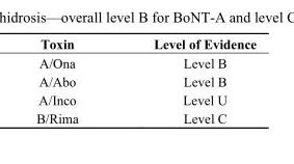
<table><thead><tr><td>Toxin</td><td>Level of Evidence</td></tr></thead><tbody><tr><td>A/Ona</td><td>Level B</td></tr><tr><td>A/Abo</td><td>Level B</td></tr><tr><td>A/Inco</td><td>Level U</td></tr><tr><td>B/Rima</td><td>Level C</td></tr></tbody></table>